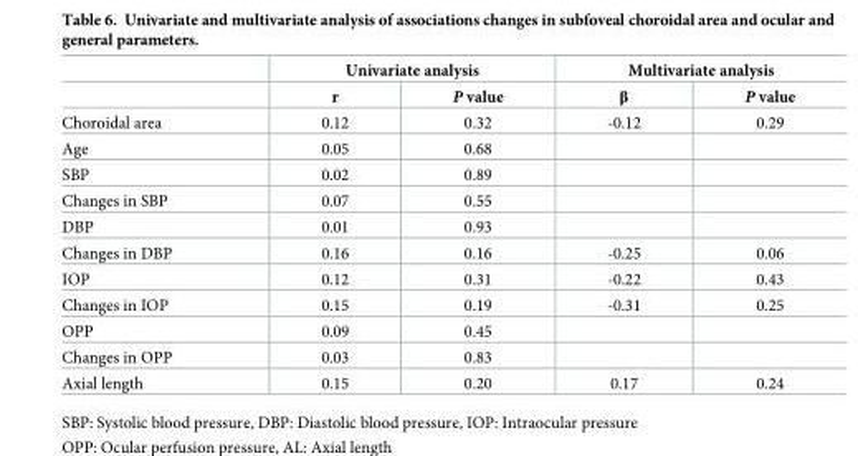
<table><thead><tr><td rowspan="2"></td><td colspan="2">Univariate analysis</td><td colspan="2">Multivariate analysis</td></tr><tr><td>r</td><td>P value</td><td>β</td><td>P value</td></tr></thead><tbody><tr><td>Choroidal area</td><td>0.12</td><td>0.32</td><td>-0.12</td><td>0.29</td></tr><tr><td>Age</td><td>0.05</td><td>0.68</td><td></td><td></td></tr><tr><td>SBP</td><td>0.02</td><td>0.89</td><td></td><td></td></tr><tr><td>Changes in SBP</td><td>0.07</td><td>0.55</td><td></td><td></td></tr><tr><td>DBP</td><td>0.01</td><td>0.93</td><td></td><td></td></tr><tr><td>Changes in DBP</td><td>0.16</td><td>0.16</td><td>-0.25</td><td>0.06</td></tr><tr><td>IOP</td><td>0.12</td><td>0.31</td><td>-0.22</td><td>0.43</td></tr><tr><td>Changes in IOP</td><td>0.15</td><td>0.19</td><td>-0.31</td><td>0.25</td></tr><tr><td>OPP</td><td>0.09</td><td>0.45</td><td></td><td></td></tr><tr><td>Changes in OPP</td><td>0.03</td><td>0.83</td><td></td><td></td></tr><tr><td>Axial length</td><td>0.15</td><td>0.20</td><td>0.17</td><td>0.24</td></tr></tbody></table>